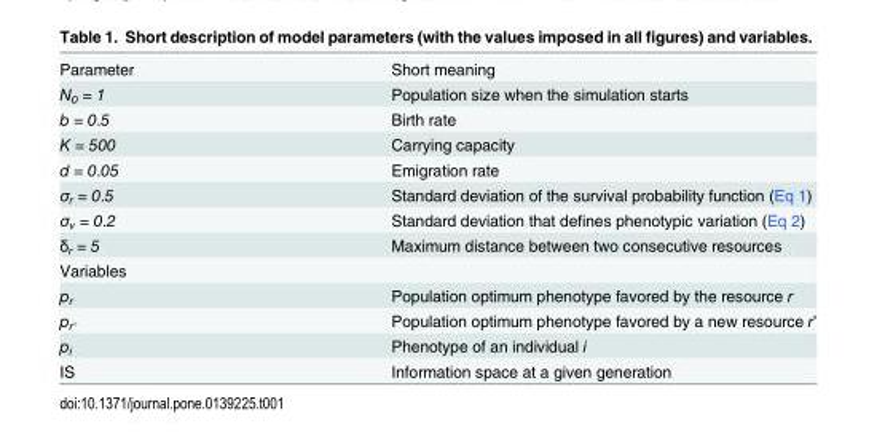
<table><tbody><tr><td>Parameter</td><td>Short meaning</td></tr><tr><td>N<sub>0</sub> = 1</td><td>Population size when the simulation starts</td></tr><tr><td>b = 0.5</td><td>Birth rate</td></tr><tr><td>K = 500</td><td>Carrying capacity</td></tr><tr><td>d = 0.05</td><td>Emigration rate</td></tr><tr><td>σ<sub>r</sub> = 0.5</td><td>Standard deviation of the survival probability function (Eq 1)</td></tr><tr><td>σ<sub>v</sub> = 0.2</td><td>Standard deviation that defines phenotypic variation (Eq 2)</td></tr><tr><td>δ<sub>r</sub> = 5</td><td>Maximum distance between two consecutive resources</td></tr><tr><td colspan="2">Variables</td></tr><tr><td>p<sub>r</sub></td><td>Population optimum phenotype favored by the resource r</td></tr><tr><td>p<sub>r&#x27;</sub></td><td>Population optimum phenotype favored by a new resource r’</td></tr><tr><td>p<sub>i</sub></td><td>Phenotype of an individual i</td></tr><tr><td>IS</td><td>Information space at a given generation</td></tr></tbody></table>